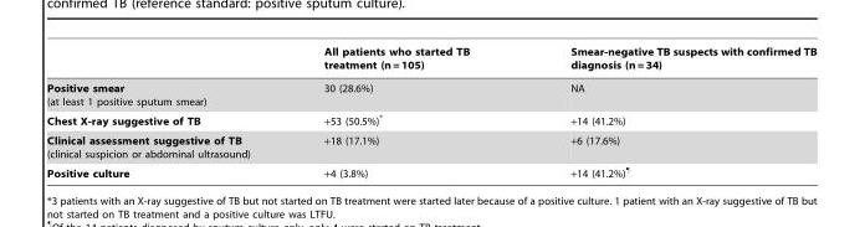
<table><thead><tr><td></td><td>All patients who started TB treatment (n = 105)</td><td>Smear-negative TB suspects with confirmed TB diagnosis (n = 34)</td></tr></thead><tbody><tr><td>Positive smear (at least 1 positive sputum smear)</td><td>30 (28.6%)</td><td>NA</td></tr><tr><td>Chest X-ray suggestive of TB</td><td>+53 (50.5%)*</td><td>+14 (41.2%)</td></tr><tr><td>Clinical assessment suggestive of TB (clinical suspicion or abdominal ultrasound)</td><td>+18 (17.1%)</td><td>+6 (17.6%)</td></tr><tr><td>Positive culture</td><td>+4 (3.8%)</td><td>+14 (41.2%)¶</td></tr></tbody></table>